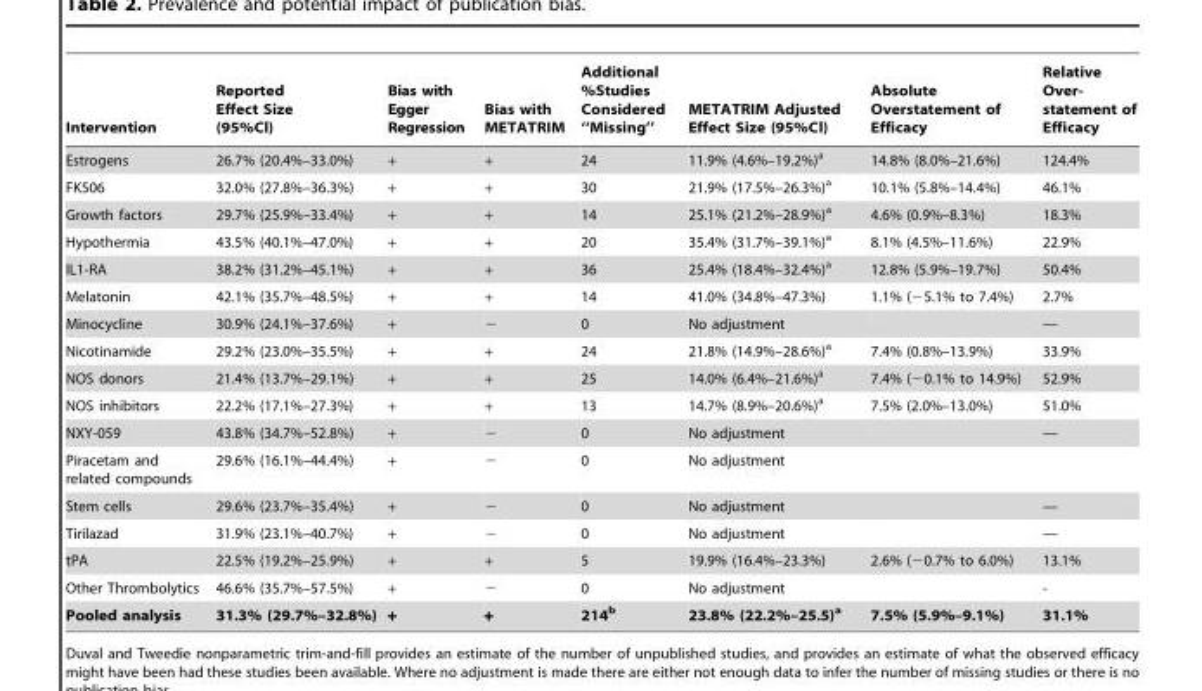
<table><thead><tr><td>Intervention</td><td>Reported Effect Size (95%Cl)</td><td>Bias with Egger Regression</td><td>Bias with METATRIM</td><td>Additional %Studies Considered ‘‘Missing’’</td><td>METATRIM Adjusted Effect Size (95%Cl)</td><td>Absolute Overstatement of Efficacy</td><td>Relative Over- statement of Efficacy</td></tr></thead><tbody><tr><td>Estrogens</td><td>26.7% (20.4%–33.0%)</td><td>+</td><td>+</td><td>24</td><td>11.9% (4.6%–19.2%)<sup>a</sup></td><td>14.8% (8.0%–21.6%)</td><td>124.4%</td></tr><tr><td>FK506</td><td>32.0% (27.8%–36.3%)</td><td>+</td><td>+</td><td>30</td><td>21.9% (17.5%–26.3%)<sup>a</sup></td><td>10.1% (5.8%–14.4%)</td><td>46.1%</td></tr><tr><td>Growth factors</td><td>29.7% (25.9%–33.4%)</td><td>+</td><td>+</td><td>14</td><td>25.1% (21.2%–28.9%)<sup>a</sup></td><td>4.6% (0.9%–8.3%)</td><td>18.3%</td></tr><tr><td>Hypothermia</td><td>43.5% (40.1%–47.0%)</td><td>+</td><td>+</td><td>20</td><td>35.4% (31.7%–39.1%)<sup>a</sup></td><td>8.1% (4.5%–11.6%)</td><td>22.9%</td></tr><tr><td>IL1-RA</td><td>38.2% (31.2%–45.1%)</td><td>+</td><td>+</td><td>36</td><td>25.4% (18.4%–32.4%)<sup>a</sup></td><td>12.8% (5.9%–19.7%)</td><td>50.4%</td></tr><tr><td>Melatonin</td><td>42.1% (35.7%–48.5%)</td><td>+</td><td>+</td><td>14</td><td>41.0% (34.8%–47.3%)</td><td>1.1% (−5.1% to 7.4%)</td><td>2.7%</td></tr><tr><td>Minocycline</td><td>30.9% (24.1%–37.6%)</td><td>+</td><td>−</td><td>0</td><td>No adjustment</td><td></td><td>—</td></tr><tr><td>Nicotinamide</td><td>29.2% (23.0%–35.5%)</td><td>+</td><td>+</td><td>24</td><td>21.8% (14.9%–28.6%)<sup>a</sup></td><td>7.4% (0.8%–13.9%)</td><td>33.9%</td></tr><tr><td>NOS donors</td><td>21.4% (13.7%–29.1%)</td><td>+</td><td>+</td><td>25</td><td>14.0% (6.4%–21.6%)<sup>a</sup></td><td>7.4% (−0.1% to 14.9%)</td><td>52.9%</td></tr><tr><td>NOS inhibitors</td><td>22.2% (17.1%–27.3%)</td><td>+</td><td>+</td><td>13</td><td>14.7% (8.9%–20.6%)<sup>a</sup></td><td>7.5% (2.0%–13.0%)</td><td>51.0%</td></tr><tr><td>NXY-059</td><td>43.8% (34.7%–52.8%)</td><td>+</td><td>−</td><td>0</td><td>No adjustment</td><td></td><td>—</td></tr><tr><td>Piracetam and related compounds</td><td>29.6% (16.1%–44.4%)</td><td>+</td><td>−</td><td>0</td><td>No adjustment</td><td></td><td></td></tr><tr><td>Stem cells</td><td>29.6% (23.7%–35.4%)</td><td>+</td><td>−</td><td>0</td><td>No adjustment</td><td></td><td>—</td></tr><tr><td>Tirilazad</td><td>31.9% (23.1%–40.7%)</td><td>+</td><td>−</td><td>0</td><td>No adjustment</td><td></td><td>—</td></tr><tr><td>tPA</td><td>22.5% (19.2%–25.9%)</td><td>+</td><td>+</td><td>5</td><td>19.9% (16.4%–23.3%)</td><td>2.6% (−0.7% to 6.0%)</td><td>13.1%</td></tr><tr><td>Other Thrombolytics</td><td>46.6% (35.7%–57.5%)</td><td>+</td><td>−</td><td>0</td><td>No adjustment</td><td></td><td>-</td></tr><tr><td>Pooled analysis</td><td>31.3% (29.7%–32.8%)</td><td>+</td><td>+</td><td>214b</td><td>23.8% (22.2%–25.5)a</td><td>7.5% (5.9%–9.1%)</td><td>31.1%</td></tr></tbody></table>